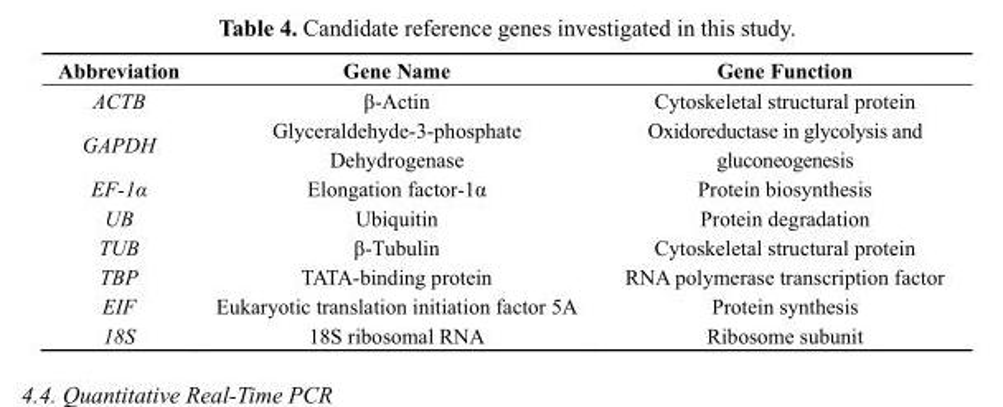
<table><thead><tr><td>Abbreviation</td><td>Gene Name</td><td>Gene Function</td></tr></thead><tbody><tr><td>ACTB</td><td>β-Actin</td><td>Cytoskeletal structural protein</td></tr><tr><td>GAPDH</td><td>Glyceraldehyde-3-phosphate Dehydrogenase</td><td>Oxidoreductase in glycolysis and gluconeogenesis</td></tr><tr><td>EF-1α</td><td>Elongation factor-1α</td><td>Protein biosynthesis</td></tr><tr><td>UB</td><td>Ubiquitin</td><td>Protein degradation</td></tr><tr><td>TUB</td><td>β-Tubulin</td><td>Cytoskeletal structural protein</td></tr><tr><td>TBP</td><td>TATA-binding protein</td><td>RNA polymerase transcription factor</td></tr><tr><td>EIF</td><td>Eukaryotic translation initiation factor 5A</td><td>Protein synthesis</td></tr><tr><td>18S</td><td>18S ribosomal RNA</td><td>Ribosome subunit</td></tr></tbody></table>